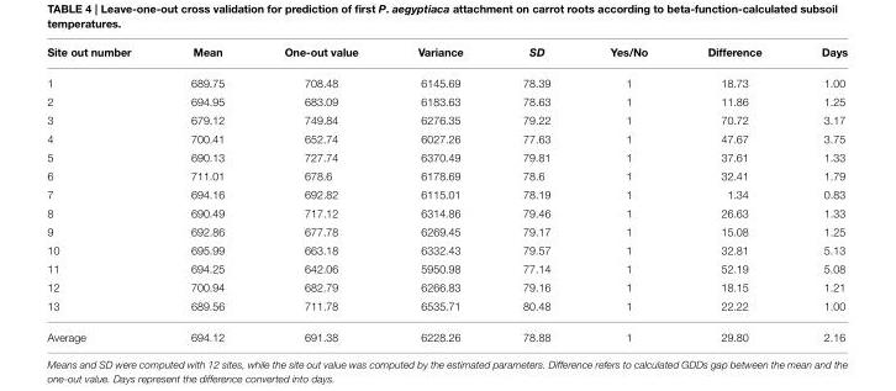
<table><thead><tr><td>Site out number</td><td>Mean</td><td>One-out value</td><td>Variance</td><td>SD</td><td>Yes/No</td><td>Difference</td><td>Days</td></tr></thead><tbody><tr><td>1</td><td>689.75</td><td>708.48</td><td>6145.69</td><td>78.39</td><td>1</td><td>18.73</td><td>1.00</td></tr><tr><td>2</td><td>694.95</td><td>683.09</td><td>6183.63</td><td>78.63</td><td>1</td><td>11.86</td><td>1.25</td></tr><tr><td>3</td><td>679.12</td><td>749.84</td><td>6276.35</td><td>79.22</td><td>1</td><td>70.72</td><td>3.17</td></tr><tr><td>4</td><td>700.41</td><td>652.74</td><td>6027.26</td><td>77.63</td><td>1</td><td>47.67</td><td>3.75</td></tr><tr><td>5</td><td>690.13</td><td>727.74</td><td>6370.49</td><td>79.81</td><td>1</td><td>37.61</td><td>1.33</td></tr><tr><td>6</td><td>711.01</td><td>678.6</td><td>6178.69</td><td>78.6</td><td>1</td><td>32.41</td><td>1.79</td></tr><tr><td>7</td><td>694.16</td><td>692.82</td><td>6115.01</td><td>78.19</td><td>1</td><td>1.34</td><td>0.83</td></tr><tr><td>8</td><td>690.49</td><td>717.12</td><td>6314.86</td><td>79.46</td><td>1</td><td>26.63</td><td>1.33</td></tr><tr><td>9</td><td>692.86</td><td>677.78</td><td>6269.45</td><td>79.17</td><td>1</td><td>15.08</td><td>1.25</td></tr><tr><td>10</td><td>695.99</td><td>663.18</td><td>6332.43</td><td>79.57</td><td>1</td><td>32.81</td><td>5.13</td></tr><tr><td>11</td><td>694.25</td><td>642.06</td><td>5950.98</td><td>77.14</td><td>1</td><td>52.19</td><td>5.08</td></tr><tr><td>12</td><td>700.94</td><td>682.79</td><td>6266.83</td><td>79.16</td><td>1</td><td>18.15</td><td>1.21</td></tr><tr><td>13</td><td>689.56</td><td>711.78</td><td>6535.71</td><td>80.48</td><td>1</td><td>22.22</td><td>1.00</td></tr><tr><td>Average</td><td>694.12</td><td>691.38</td><td>6228.26</td><td>78.88</td><td>1</td><td>29.80</td><td>2.16</td></tr></tbody></table>